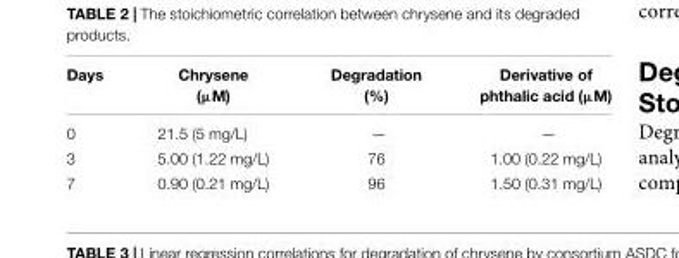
<table><thead><tr><td>Days</td><td>Chrysene (µM)</td><td>Degradation (%)</td><td>Derivative of phthalic acid (µM)</td></tr></thead><tbody><tr><td>0</td><td>21.5 (5 mg/L)</td><td>—</td><td>—</td></tr><tr><td>3</td><td>5.00 (1.22 mg/L)</td><td>76</td><td>1.00 (0.22 mg/L)</td></tr><tr><td>7</td><td>0.90 (0.21 mg/L)</td><td>96</td><td>1.50 (0.31 mg/L)</td></tr></tbody></table>